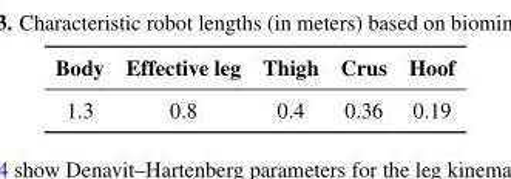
<table><thead><tr><td>Body</td><td>Effective leg</td><td>Thigh</td><td>Crus</td><td>Hoof</td></tr></thead><tbody><tr><td>1.3</td><td>0.8</td><td>0.4</td><td>0.36</td><td>0.19</td></tr></tbody></table>